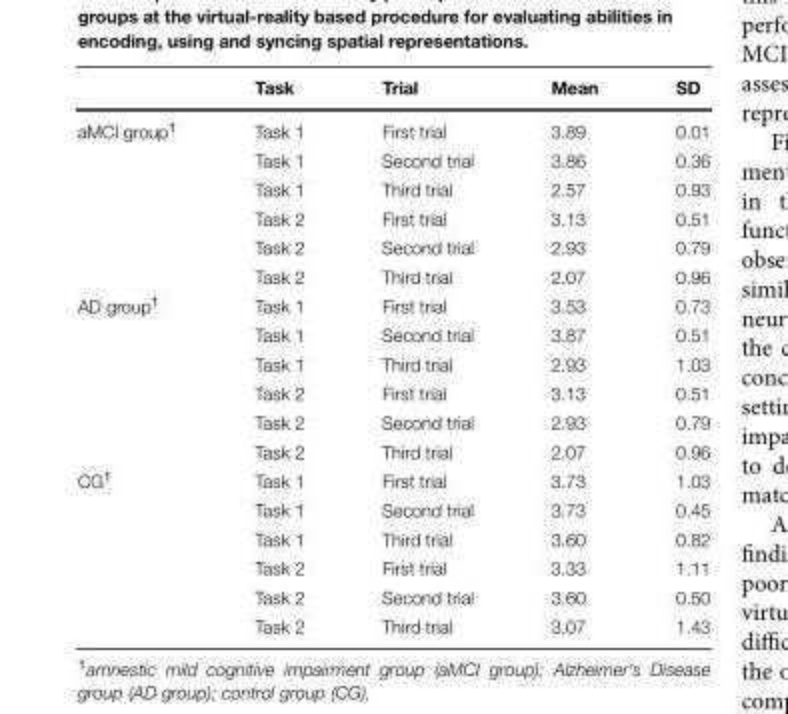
<table><thead><tr><td></td><td>Task</td><td>Trial</td><td>Mean</td><td>SD</td></tr></thead><tbody><tr><td rowspan="6">aMCI group<sup>1</sup></td><td>Task 1</td><td>First trial</td><td>3.89</td><td>0.01</td></tr><tr><td>Task 1</td><td>Second trial</td><td>3.86</td><td>0.36</td></tr><tr><td>Task 1</td><td>Third trial</td><td>2.57</td><td>0.93</td></tr><tr><td>Task 2</td><td>First trial</td><td>3.13</td><td>0.51</td></tr><tr><td>Task 2</td><td>Second trial</td><td>2.93</td><td>0.79</td></tr><tr><td>Task 2</td><td>Third trial</td><td>2.07</td><td>0.96</td></tr><tr><td rowspan="6">AD group<sup>1</sup></td><td>Task 1</td><td>First trial</td><td>3.53</td><td>0.73</td></tr><tr><td>Task 1</td><td>Second trial</td><td>3.87</td><td>0.51</td></tr><tr><td>Task 1</td><td>Third trial</td><td>2.93</td><td>1.03</td></tr><tr><td>Task 2</td><td>First trial</td><td>3.13</td><td>0.51</td></tr><tr><td>Task 2</td><td>Second trial</td><td>2.93</td><td>0.79</td></tr><tr><td>Task 2</td><td>Third trial</td><td>2.07</td><td>0.96</td></tr><tr><td rowspan="6">CG<sup>1</sup></td><td>Task 1</td><td>First trial</td><td>3.73</td><td>1.03</td></tr><tr><td>Task 1</td><td>Second trial</td><td>3.73</td><td>0.45</td></tr><tr><td>Task 1</td><td>Third trial</td><td>3.60</td><td>0.82</td></tr><tr><td>Task 2</td><td>First trial</td><td>3.33</td><td>1.11</td></tr><tr><td>Task 2</td><td>Second trial</td><td>3.60</td><td>0.50</td></tr><tr><td>Task 2</td><td>Third trial</td><td>3.07</td><td>1.43</td></tr></tbody></table>